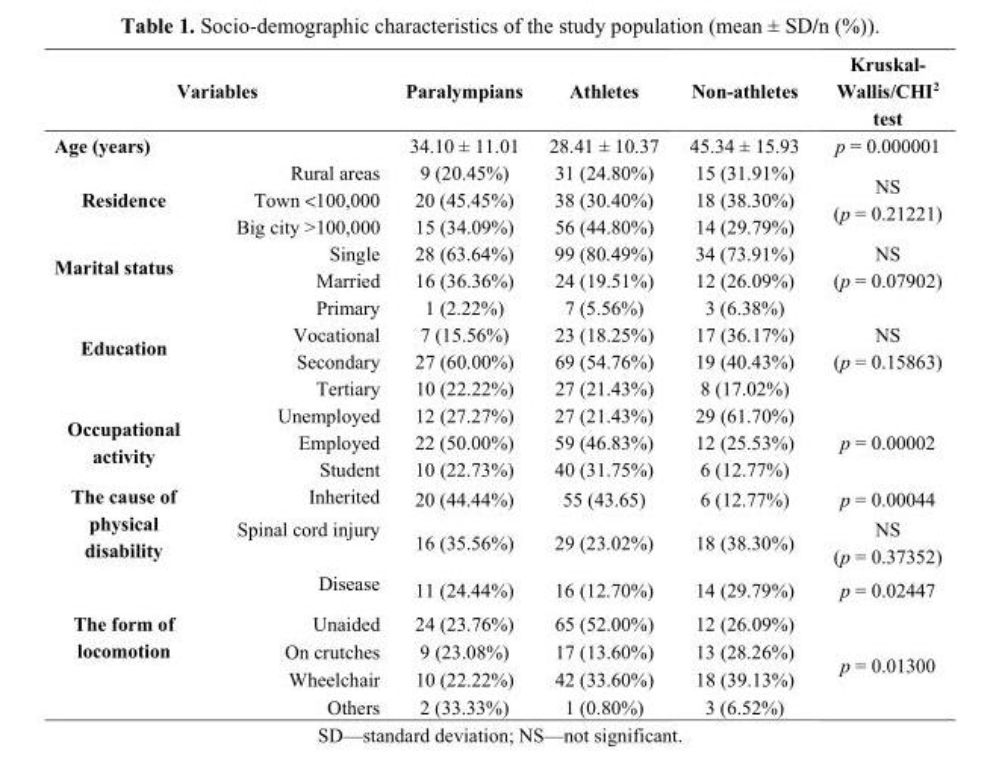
<table><thead><tr><td colspan="2">Variables</td><td rowspan="2">Paralympians 34.10 ± 11.01</td><td rowspan="2">Athletes 28.41 ± 10.37</td><td rowspan="2">Non-athletes 45.34 ± 15.93</td><td rowspan="2">Kruskal- Wallis/CHI<sup>2</sup> test p = 0.000001</td></tr><tr><td>Age (years)</td><td></td></tr></thead><tbody><tr><td rowspan="3">Residence</td><td>Rural areas</td><td>9 (20.45%)</td><td>31 (24.80%)</td><td>15 (31.91%)</td><td rowspan="3">NS (p = 0.21221)</td></tr><tr><td>Town &lt;100,000</td><td>20 (45.45%)</td><td>38 (30.40%)</td><td>18 (38.30%)</td></tr><tr><td>Big city &gt;100,000</td><td>15 (34.09%)</td><td>56 (44.80%)</td><td>14 (29.79%)</td></tr><tr><td rowspan="2">Marital status</td><td>Single</td><td>28 (63.64%)</td><td>99 (80.49%)</td><td>34 (73.91%)</td><td rowspan="2">NS (p = 0.07902)</td></tr><tr><td>Married</td><td>16 (36.36%)</td><td>24 (19.51%)</td><td>12 (26.09%)</td></tr><tr><td rowspan="4">Education</td><td>Primary</td><td>1 (2.22%)</td><td>7 (5.56%)</td><td>3 (6.38%)</td><td rowspan="4">NS (p = 0.15863)</td></tr><tr><td>Vocational</td><td>7 (15.56%)</td><td>23 (18.25%)</td><td>17 (36.17%)</td></tr><tr><td>Secondary</td><td>27 (60.00%)</td><td>69 (54.76%)</td><td>19 (40.43%)</td></tr><tr><td>Tertiary</td><td>10 (22.22%)</td><td>27 (21.43%)</td><td>8 (17.02%)</td></tr><tr><td rowspan="3">Occupational activity</td><td>Unemployed</td><td>12 (27.27%)</td><td>27 (21.43%)</td><td>29 (61.70%)</td><td rowspan="3">p = 0.00002</td></tr><tr><td>Employed</td><td>22 (50.00%)</td><td>59 (46.83%)</td><td>12 (25.53%)</td></tr><tr><td>Student</td><td>10 (22.73%)</td><td>40 (31.75%)</td><td>6 (12.77%)</td></tr><tr><td rowspan="3">The cause of physical disability</td><td>Inherited</td><td>20 (44.44%)</td><td>55 (43.65)</td><td>6 (12.77%)</td><td>p = 0.00044</td></tr><tr><td>Spinal cord injury</td><td>16 (35.56%)</td><td>29 (23.02%)</td><td>18 (38.30%)</td><td>NS (p = 0.37352)</td></tr><tr><td>Disease</td><td>11 (24.44%)</td><td>16 (12.70%)</td><td>14 (29.79%)</td><td>p = 0.02447</td></tr><tr><td rowspan="4">The form of locomotion</td><td>Unaided</td><td>24 (23.76%)</td><td>65 (52.00%)</td><td>12 (26.09%)</td><td rowspan="4">p = 0.01300</td></tr><tr><td>On crutches</td><td>9 (23.08%)</td><td>17 (13.60%)</td><td>13 (28.26%)</td></tr><tr><td>Wheelchair</td><td>10 (22.22%)</td><td>42 (33.60%)</td><td>18 (39.13%)</td></tr><tr><td>Others</td><td>2 (33.33%)</td><td>1 (0.80%)</td><td>3 (6.52%)</td></tr></tbody></table>